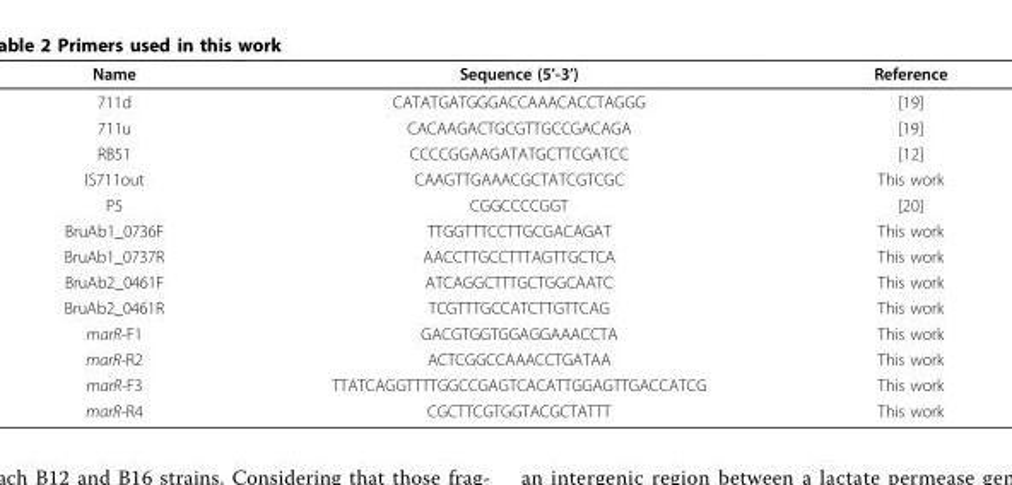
<table><thead><tr><td>Name</td><td>Sequence (5’-3’)</td><td>Reference</td></tr></thead><tbody><tr><td>711d</td><td>CATATGATGGGACCAAACACCTAGGG</td><td>[19]</td></tr><tr><td>711u</td><td>CACAAGACTGCGTTGCCGACAGA</td><td>[19]</td></tr><tr><td>RB51</td><td>CCCCGGAAGATATGCTTCGATCC</td><td>[12]</td></tr><tr><td>IS711out</td><td>CAAGTTGAAACGCTATCGTCGC</td><td>This work</td></tr><tr><td>P5</td><td>CGGCCCCGGT</td><td>[20]</td></tr><tr><td>BruAb1_0736F</td><td>TTGGTTTCCTTGCGACAGAT</td><td>This work</td></tr><tr><td>BruAb1_0737R</td><td>AACCTTGCCTTTAGTTGCTCA</td><td>This work</td></tr><tr><td>BruAb2_0461F</td><td>ATCAGGCTTTGCTGGCAATC</td><td>This work</td></tr><tr><td>BruAb2_0461R</td><td>TCGTTTGCCATCTTGTTCAG</td><td>This work</td></tr><tr><td>marR-F1</td><td>GACGTGGTGGAGGAAACCTA</td><td>This work</td></tr><tr><td>marR-R2</td><td>ACTCGGCCAAACCTGATAA</td><td>This work</td></tr><tr><td>marR-F3</td><td>TTATCAGGTTTTGGCCGAGTCACATTGGAGTTGACCATCG</td><td>This work</td></tr><tr><td>marR-R4</td><td>CGCTTCGTGGTACGCTATTT</td><td>This work</td></tr></tbody></table>